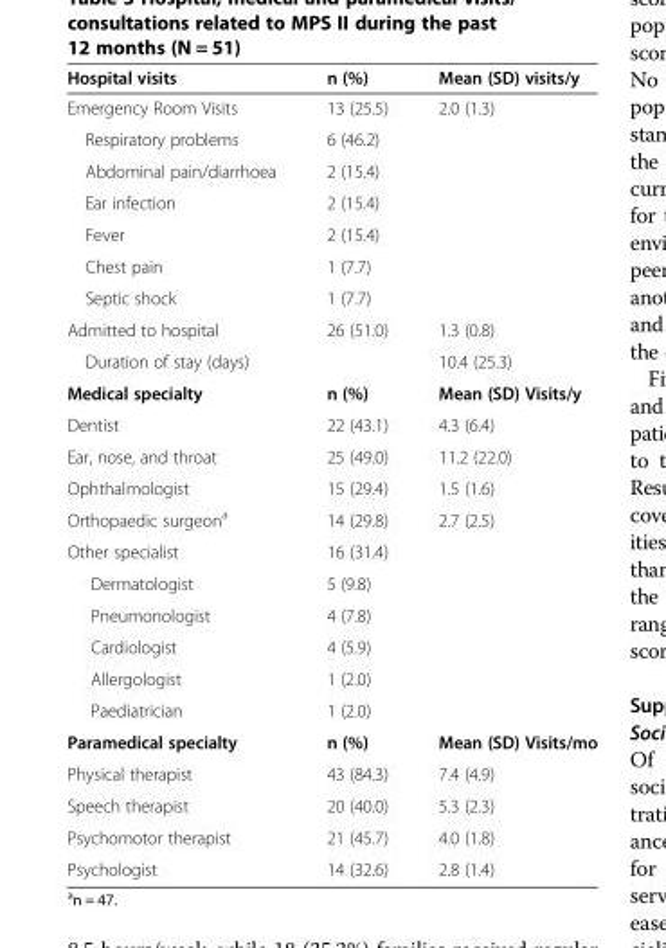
<table><thead><tr><td>Hospital visits</td><td>n (%)</td><td>Mean (SD) visits/y</td></tr></thead><tbody><tr><td>Emergency Room Visits</td><td>13 (25.5)</td><td>2.0 (1.3)</td></tr><tr><td>Respiratory problems</td><td>6 (46.2)</td><td></td></tr><tr><td>Abdominal pain/diarrhoea</td><td>2 (15.4)</td><td rowspan="5"></td></tr><tr><td>Ear infection</td><td>2 (15.4)</td></tr><tr><td>Fever</td><td>2 (15.4)</td></tr><tr><td>Chest pain</td><td>1 (7.7)</td></tr><tr><td>Septic shock</td><td>1 (7.7)</td></tr><tr><td>Admitted to hospital</td><td>26 (51.0)</td><td>1.3 (0.8)</td></tr><tr><td>Duration of stay (days)</td><td></td><td>10.4 (25.3)</td></tr><tr><td>Medical specialty</td><td>n (%)</td><td>Mean (SD) Visits/y</td></tr><tr><td>Dentist</td><td>22 (43.1)</td><td>4.3 (6.4)</td></tr><tr><td>Ear, nose, and throat</td><td>25 (49.0)</td><td>11.2 (22.0)</td></tr><tr><td>Ophthalmologist</td><td>15 (29.4)</td><td>1.5 (1.6)</td></tr><tr><td>Orthopaedic surgeon<sup>a</sup></td><td>14 (29.8)</td><td>2.7 (2.5)</td></tr><tr><td>Other specialist</td><td>16 (31.4)</td><td></td></tr><tr><td>Dermatologist</td><td>5 (9.8)</td><td></td></tr><tr><td>Pneumonologist</td><td>4 (7.8)</td><td></td></tr><tr><td>Cardiologist</td><td>4 (5.9)</td><td></td></tr><tr><td>Allergologist</td><td>1 (2.0)</td><td></td></tr><tr><td>Paediatrician</td><td>1 (2.0)</td><td></td></tr><tr><td>Paramedical specialty</td><td>n (%)</td><td>Mean (SD) Visits/mo</td></tr><tr><td>Physical therapist</td><td>43 (84.3)</td><td>7.4 (4.9)</td></tr><tr><td>Speech therapist</td><td>20 (40.0)</td><td>5.3 (2.3)</td></tr><tr><td>Psychomotor therapist</td><td>21 (45.7)</td><td>4.0 (1.8)</td></tr><tr><td>Psychologist</td><td>14 (32.6)</td><td>2.8 (1.4)</td></tr></tbody></table>